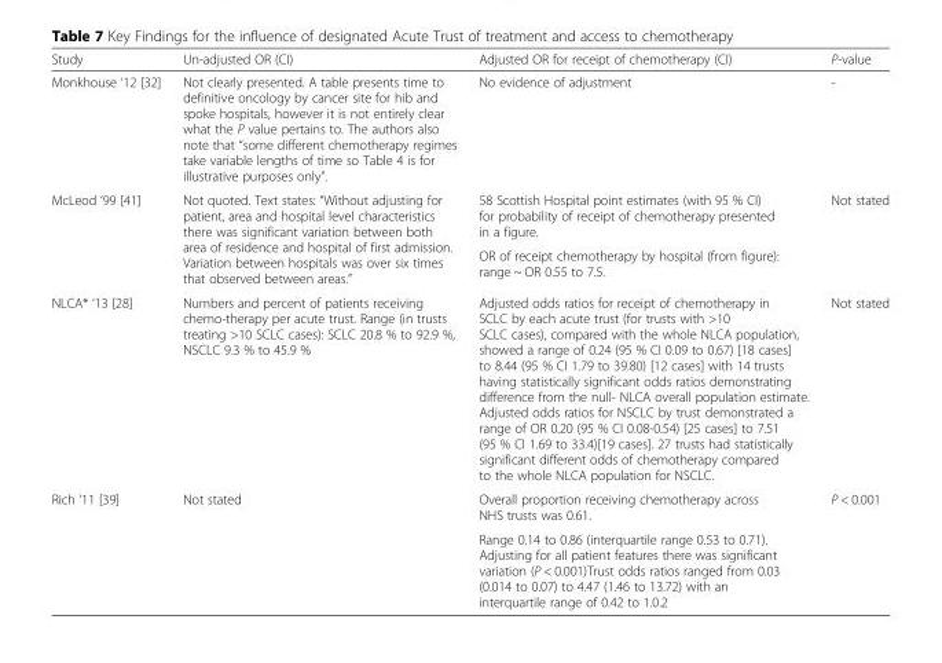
<table><thead><tr><td>Study</td><td>Un-adjusted OR (CI)</td><td>Adjusted OR for receipt of chemotherapy (CI)</td><td>P-value</td></tr></thead><tbody><tr><td>Monkhouse ‘12 [32]</td><td>Not clearly presented. A table presents time to definitive oncology by cancer site for hib and spoke hospitals, however it is not entirely clear what the P value pertains to. The authors also note that “some different chemotherapy regimes take variable lengths of time so Table 4 is for illustrative purposes only”.</td><td>No evidence of adjustment</td><td>-</td></tr><tr><td rowspan="2">McLeod ‘99 [41]</td><td rowspan="2">Not quoted. Text states: “Without adjusting for patient, area and hospital level characteristics there was significant variation between both area of residence and hospital of first admission. Variation between hospitals was over six times that observed between areas.”</td><td>58 Scottish Hospital point estimates (with 95 % CI) for probability of receipt of chemotherapy presented in a figure.</td><td rowspan="2">Not stated</td></tr><tr><td>OR of receipt chemotherapy by hospital (from figure): range ~ OR 0.55 to 7.5.</td></tr><tr><td>NLCA* ‘13 [28]</td><td>Numbers and percent of patients receiving chemo-therapy per acute trust. Range (in trusts treating &gt;10 SCLC cases): SCLC 20.8 % to 92.9 %, NSCLC 9.3 % to 45.9 %</td><td>Adjusted odds ratios for receipt of chemotherapy in SCLC by each acute trust (for trusts with &gt;10 SCLC cases), compared with the whole NLCA population, showed a range of 0.24 (95 % CI 0.09 to 0.67) [18 cases] to 8.44 (95 % CI 1.79 to 39.80) [12 cases] with 14 trusts having statistically significant odds ratios demonstrating difference from the null- NLCA overall population estimate. Adjusted odds ratios for NSCLC by trust demonstrated a range of OR 0.20 (95 % CI 0.08-0.54) [25 cases] to 7.51 (95 % CI 1.69 to 33.4)[19 cases]. 27 trusts had statistically significant different odds of chemotherapy compared to the whole NLCA population for NSCLC.</td><td>Not stated</td></tr><tr><td rowspan="2">Rich ‘11 [39]</td><td rowspan="2">Not stated</td><td>Overall proportion receiving chemotherapy across NHS trusts was 0.61.</td><td rowspan="2">P &lt; 0.001</td></tr><tr><td>Range 0.14 to 0.86 (interquartile range 0.53 to 0.71). Adjusting for all patient features there was significant variation (P &lt; 0.001)Trust odds ratios ranged from 0.03 (0.014 to 0.07) to 4.47 (1.46 to 13.72) with an interquartile range of 0.42 to 1.0.2</td></tr></tbody></table>